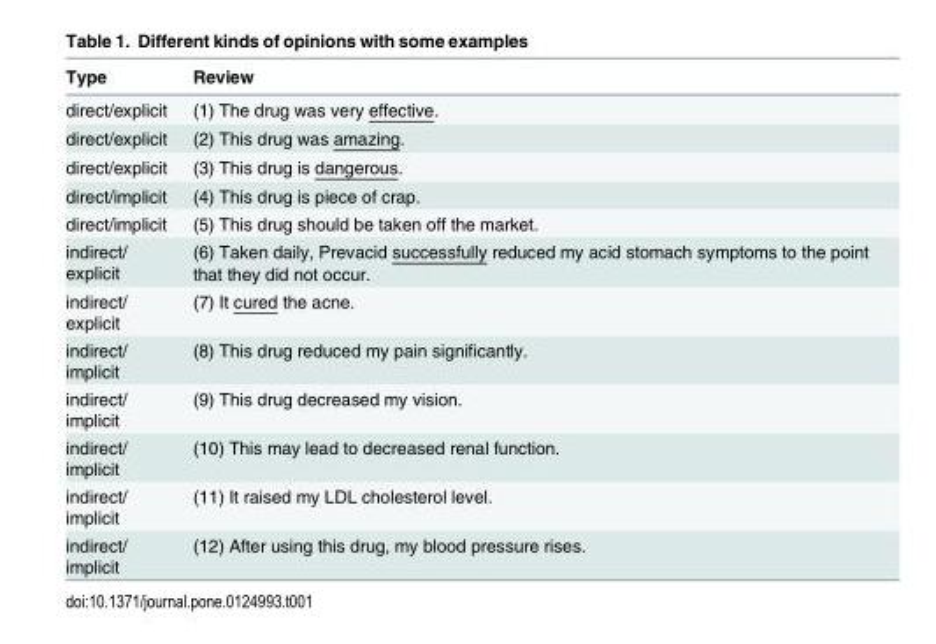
<table><thead><tr><td>Type</td><td>Review</td></tr></thead><tbody><tr><td>direct/explicit</td><td>(1) The drug was very effective.</td></tr><tr><td>direct/explicit</td><td>(2) This drug was amazing.</td></tr><tr><td>direct/explicit</td><td>(3) This drug is dangerous.</td></tr><tr><td>direct/implicit</td><td>(4) This drug is piece of crap.</td></tr><tr><td>direct/implicit</td><td>(5) This drug should be taken off the market.</td></tr><tr><td>indirect/ explicit</td><td>(6) Taken daily, Prevacid successfully reduced my acid stomach symptoms to the point that they did not occur.</td></tr><tr><td>indirect/ explicit</td><td>(7) It cured the acne.</td></tr><tr><td>indirect/ implicit</td><td>(8) This drug reduced my pain significantly.</td></tr><tr><td>indirect/ implicit</td><td>(9) This drug decreased my vision.</td></tr><tr><td>indirect/ implicit</td><td>(10) This may lead to decreased renal function.</td></tr><tr><td>indirect/ implicit</td><td>(11) It raised my LDL cholesterol level.</td></tr><tr><td>indirect/ implicit</td><td>(12) After using this drug, my blood pressure rises.</td></tr></tbody></table>